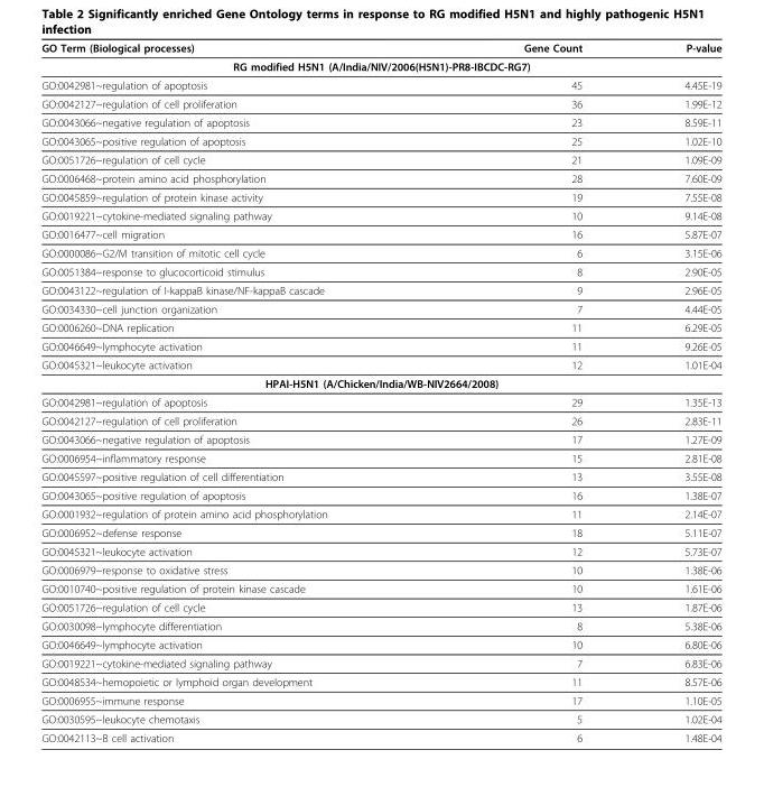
<table><thead><tr><td>GO Term (Biological processes)</td><td>Gene Count</td><td>P-value</td></tr></thead><tbody><tr><td colspan="3">RG modified H5N1 (A/India/NIV/2006(H5N1)-PR8-IBCDC-RG7)</td></tr><tr><td>GO:0042981~regulation of apoptosis</td><td>45</td><td>4.45E-19</td></tr><tr><td>GO:0042127~regulation of cell proliferation</td><td>36</td><td>1.99E-12</td></tr><tr><td>GO:0043066~negative regulation of apoptosis</td><td>23</td><td>8.59E-11</td></tr><tr><td>GO:0043065~positive regulation of apoptosis</td><td>25</td><td>1.02E-10</td></tr><tr><td>GO:0051726~regulation of cell cycle</td><td>21</td><td>1.09E-09</td></tr><tr><td>GO:0006468~protein amino acid phosphorylation</td><td>28</td><td>7.60E-09</td></tr><tr><td>GO:0045859~regulation of protein kinase activity</td><td>19</td><td>7.55E-08</td></tr><tr><td>GO:0019221~cytokine-mediated signaling pathway</td><td>10</td><td>9.14E-08</td></tr><tr><td>GO:0016477~cell migration</td><td>16</td><td>5.87E-07</td></tr><tr><td>GO:0000086~G2/M transition of mitotic cell cycle</td><td>6</td><td>3.15E-06</td></tr><tr><td>GO:0051384~response to glucocorticoid stimulus</td><td>8</td><td>2.90E-05</td></tr><tr><td>GO:0043122~regulation of I-kappaB kinase/NF-kappaB cascade</td><td>9</td><td>2.96E-05</td></tr><tr><td>GO:0034330~cell junction organization</td><td>7</td><td>4.44E-05</td></tr><tr><td>GO:0006260~DNA replication</td><td>11</td><td>6.29E-05</td></tr><tr><td>GO:0046649~lymphocyte activation</td><td>11</td><td>9.26E-05</td></tr><tr><td>GO:0045321~leukocyte activation</td><td>12</td><td>1.01E-04</td></tr><tr><td colspan="3">HPAI-H5N1 (A/Chicken/India/WB-NIV2664/2008)</td></tr><tr><td>GO:0042981~regulation of apoptosis</td><td>29</td><td>1.35E-13</td></tr><tr><td>GO:0042127~regulation of cell proliferation</td><td>26</td><td>2.83E-11</td></tr><tr><td>GO:0043066~negative regulation of apoptosis</td><td>17</td><td>1.27E-09</td></tr><tr><td>GO:0006954~inflammatory response</td><td>15</td><td>2.81E-08</td></tr><tr><td>GO:0045597~positive regulation of cell differentiation</td><td>13</td><td>3.55E-08</td></tr><tr><td>GO:0043065~positive regulation of apoptosis</td><td>16</td><td>1.38E-07</td></tr><tr><td>GO:0001932~regulation of protein amino acid phosphorylation</td><td>11</td><td>2.14E-07</td></tr><tr><td>GO:0006952~defense response</td><td>18</td><td>5.11E-07</td></tr><tr><td>GO:0045321~leukocyte activation</td><td>12</td><td>5.73E-07</td></tr><tr><td>GO:0006979~response to oxidative stress</td><td>10</td><td>1.38E-06</td></tr><tr><td>GO:0010740~positive regulation of protein kinase cascade</td><td>10</td><td>1.61E-06</td></tr><tr><td>GO:0051726~regulation of cell cycle</td><td>13</td><td>1.87E-06</td></tr><tr><td>GO:0030098~lymphocyte differentiation</td><td>8</td><td>5.38E-06</td></tr><tr><td>GO:0046649~lymphocyte activation</td><td>10</td><td>6.80E-06</td></tr><tr><td>GO:0019221~cytokine-mediated signaling pathway</td><td>7</td><td>6.83E-06</td></tr><tr><td>GO:0048534~hemopoietic or lymphoid organ development</td><td>11</td><td>8.57E-06</td></tr><tr><td>GO:0006955~immune response</td><td>17</td><td>1.10E-05</td></tr><tr><td>GO:0030595~leukocyte chemotaxis</td><td>5</td><td>1.02E-04</td></tr><tr><td>GO:0042113~B cell activation</td><td>6</td><td>1.48E-04</td></tr></tbody></table>